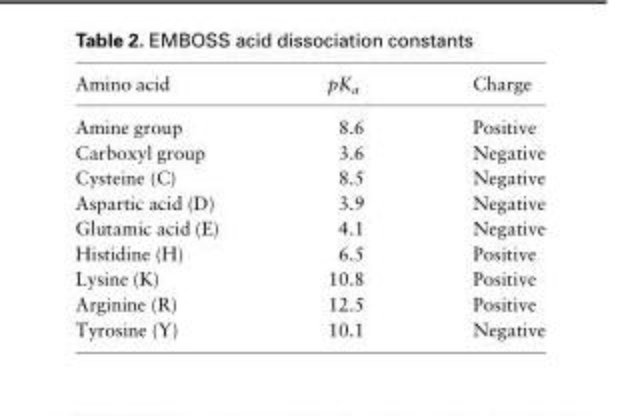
<table><thead><tr><td>Amino acid</td><td>pK<sub>a</sub></td><td>Charge</td></tr></thead><tbody><tr><td>Amine group</td><td>8.6</td><td>Positive</td></tr><tr><td>Carboxyl group</td><td>3.6</td><td>Negative</td></tr><tr><td>Cysteine (C)</td><td>8.5</td><td>Negative</td></tr><tr><td>Aspartic acid (D)</td><td>3.9</td><td>Negative</td></tr><tr><td>Glutamic acid (E)</td><td>4.1</td><td>Negative</td></tr><tr><td>Histidine (H)</td><td>6.5</td><td>Positive</td></tr><tr><td>Lysine (K)</td><td>10.8</td><td>Positive</td></tr><tr><td>Arginine (R)</td><td>12.5</td><td>Positive</td></tr><tr><td>Tyrosine (Y)</td><td>10.1</td><td>Negative</td></tr></tbody></table>